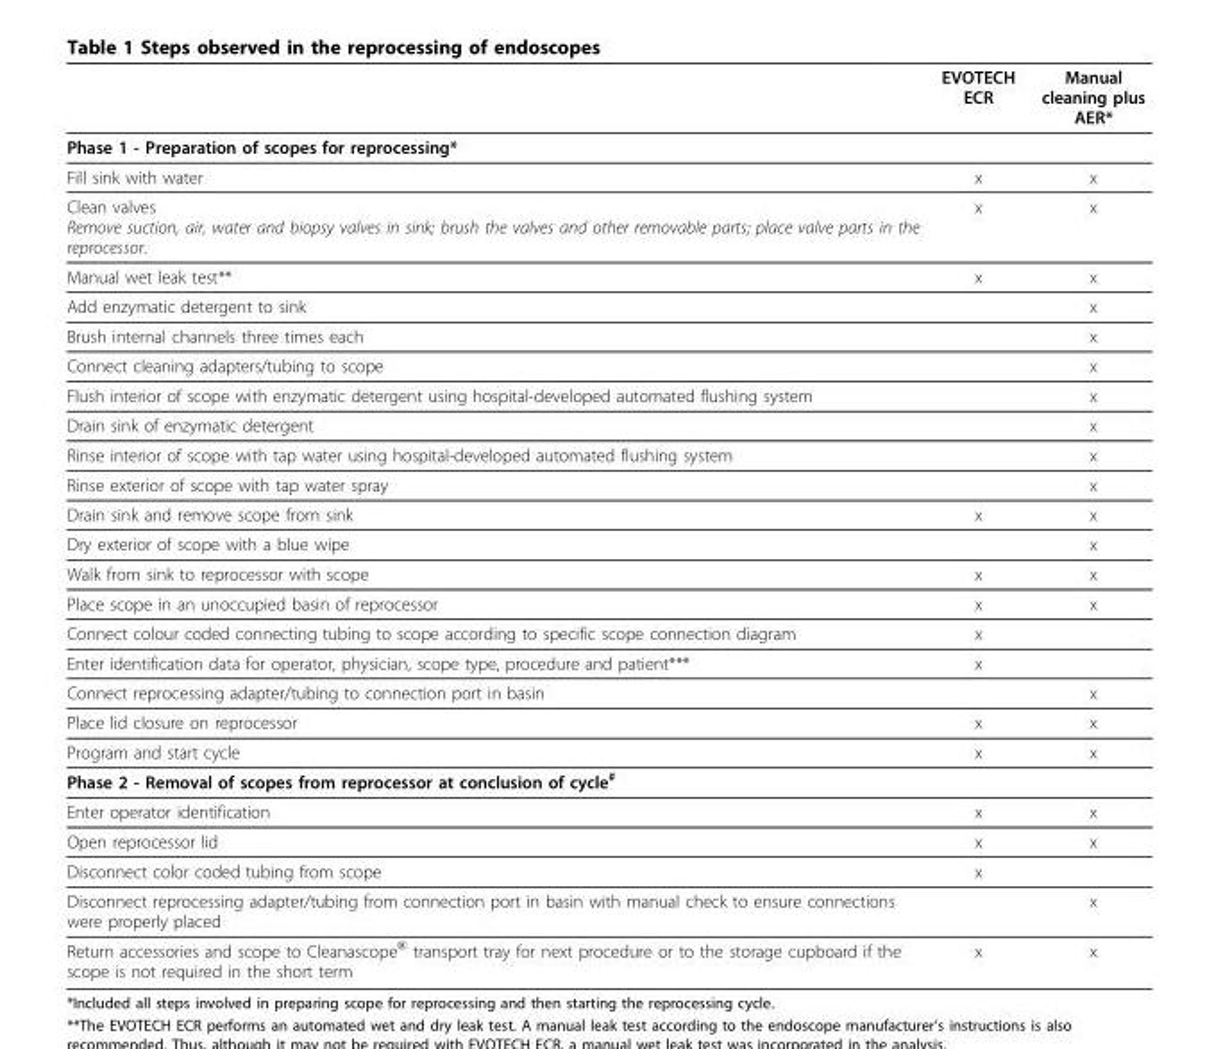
<table><thead><tr><td></td><td>EVOTECH ECR</td><td>Manual cleaning plus AER*</td></tr></thead><tbody><tr><td colspan="3">Phase 1 - Preparation of scopes for reprocessing*</td></tr><tr><td>Fill sink with water</td><td>x</td><td>x</td></tr><tr><td>Clean valves Remove suction, air, water and biopsy valves in sink; brush the valves and other removable parts; place valve parts in the reprocessor.</td><td>x</td><td>x</td></tr><tr><td>Manual wet leak test**</td><td>x</td><td>x</td></tr><tr><td>Add enzymatic detergent to sink</td><td></td><td>x</td></tr><tr><td>Brush internal channels three times each</td><td></td><td>x</td></tr><tr><td>Connect cleaning adapters/tubing to scope</td><td></td><td>x</td></tr><tr><td>Flush interior of scope with enzymatic detergent using hospital-developed automated flushing system</td><td></td><td>x</td></tr><tr><td>Drain sink of enzymatic detergent</td><td></td><td>x</td></tr><tr><td>Rinse interior of scope with tap water using hospital-developed automated flushing system</td><td></td><td>x</td></tr><tr><td>Rinse exterior of scope with tap water spray</td><td></td><td>x</td></tr><tr><td>Drain sink and remove scope from sink</td><td>x</td><td>x</td></tr><tr><td>Dry exterior of scope with a blue wipe</td><td></td><td>x</td></tr><tr><td>Walk from sink to reprocessor with scope</td><td>x</td><td>x</td></tr><tr><td>Place scope in an unoccupied basin of reprocessor</td><td>x</td><td>x</td></tr><tr><td>Connect colour coded connecting tubing to scope according to specific scope connection diagram</td><td>x</td><td></td></tr><tr><td>Enter identification data for operator, physician, scope type, procedure and patient***</td><td>x</td><td></td></tr><tr><td>Connect reprocessing adapter/tubing to connection port in basin</td><td></td><td>x</td></tr><tr><td>Place lid closure on reprocessor</td><td>x</td><td>x</td></tr><tr><td>Program and start cycle</td><td>x</td><td>x</td></tr><tr><td colspan="3">Phase 2 - Removal of scopes from reprocessor at conclusion of cycle<sup>#</sup></td></tr><tr><td>Enter operator identification</td><td>x</td><td>x</td></tr><tr><td>Open reprocessor lid</td><td>x</td><td>x</td></tr><tr><td>Disconnect color coded tubing from scope</td><td>x</td><td></td></tr><tr><td>Disconnect reprocessing adapter/tubing from connection port in basin with manual check to ensure connections were properly placed</td><td></td><td>x</td></tr><tr><td>Return accessories and scope to Cleanascope<sup>®</sup> transport tray for next procedure or to the storage cupboard if the scope is not required in the short term</td><td>x</td><td>x</td></tr></tbody></table>